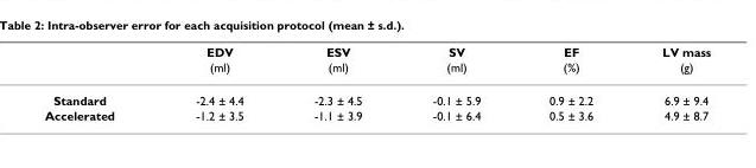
<table><thead><tr><td rowspan="2"></td><td rowspan="2">EDV (ml)</td><td rowspan="2">ESV (ml)</td><td rowspan="2">SV (ml)</td><td rowspan="2">EF (%)</td><td rowspan="2">LV mass (g)</td></tr><tr></tr></thead><tbody><tr><td>Standard</td><td>-2.4 ± 4.4</td><td>-2.3 ± 4.5</td><td>-0.1 ± 5.9</td><td>0.9 ± 2.2</td><td>6.9 ± 9.4</td></tr><tr><td>Accelerated</td><td>-1.2 ± 3.5</td><td>-1.1 ± 3.9</td><td>-0.1 ± 6.4</td><td>0.5 ± 3.6</td><td>4.9 ± 8.7</td></tr></tbody></table>